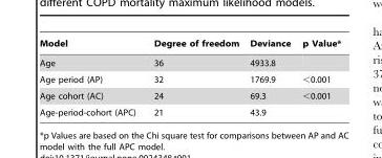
<table><thead><tr><td>Model</td><td>Degree of freedom</td><td>Deviance</td><td>p Value*</td></tr></thead><tbody><tr><td>Age</td><td>36</td><td>4933.8</td><td></td></tr><tr><td>Age period (AP)</td><td>32</td><td>1769.9</td><td>&lt;0.001</td></tr><tr><td>Age cohort (AC)</td><td>24</td><td>69.3</td><td>&lt;0.001</td></tr><tr><td>Age-period-cohort (APC)</td><td>21</td><td>43.9</td><td></td></tr></tbody></table>